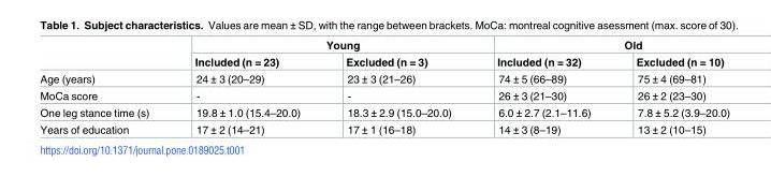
<table><thead><tr><td rowspan="2"></td><td colspan="2">Young</td><td colspan="2">Old</td></tr><tr><td>Included (n = 23)</td><td>Excluded (n = 3)</td><td>Included (n = 32)</td><td>Excluded (n = 10)</td></tr></thead><tbody><tr><td>Age (years)</td><td>24 ± 3 (20–29)</td><td>23 ± 3 (21–26)</td><td>74 ± 5 (66–89)</td><td>75 ± 4 (69–81)</td></tr><tr><td>MoCa score</td><td>-</td><td>-</td><td>26 ± 3 (21–30)</td><td>26 ± 2 (23–30)</td></tr><tr><td>One leg stance time (s)</td><td>19.8 ± 1.0 (15.4–20.0)</td><td>18.3 ± 2.9 (15.0–20.0)</td><td>6.0 ± 2.7 (2.1–11.6)</td><td>7.8 ± 5.2 (3.9–20.0)</td></tr><tr><td>Years of education</td><td>17 ± 2 (14–21)</td><td>17 ± 1 (16–18)</td><td>14 ± 3 (8–19)</td><td>13 ± 2 (10–15)</td></tr></tbody></table>